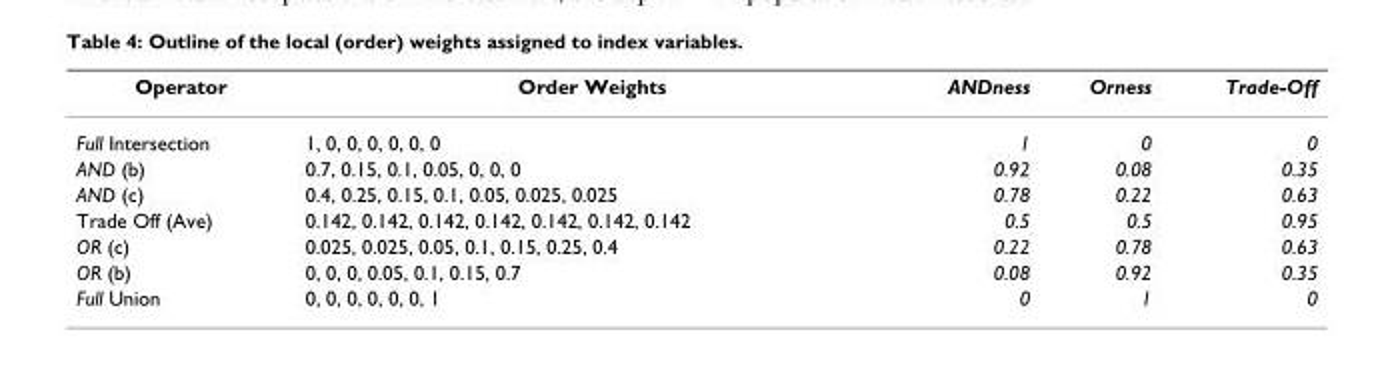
<table><thead><tr><td>Operator</td><td>Order Weights</td><td>ANDness</td><td>Orness</td><td>Trade-Off</td></tr></thead><tbody><tr><td>Full Intersection</td><td>1, 0, 0, 0, 0, 0, 0</td><td>1</td><td>0</td><td>0</td></tr><tr><td>AND (b)</td><td>0.7, 0.15, 0.1, 0.05, 0, 0, 0</td><td>0.92</td><td>0.08</td><td>0.35</td></tr><tr><td>AND (c)</td><td>0.4, 0.25, 0.15, 0.1, 0.05, 0.025, 0.025</td><td>0.78</td><td>0.22</td><td>0.63</td></tr><tr><td>Trade Off (Ave)</td><td>0.142, 0.142, 0.142, 0.142, 0.142, 0.142, 0.142</td><td>0.5</td><td>0.5</td><td>0.95</td></tr><tr><td>OR (c)</td><td>0.025, 0.025, 0.05, 0.1, 0.15, 0.25, 0.4</td><td>0.22</td><td>0.78</td><td>0.63</td></tr><tr><td>OR (b)</td><td>0, 0, 0, 0.05, 0.1, 0.15, 0.7</td><td>0.08</td><td>0.92</td><td>0.35</td></tr><tr><td>Full Union</td><td>0, 0, 0, 0, 0, 0, 1</td><td>0</td><td>1</td><td>0</td></tr></tbody></table>